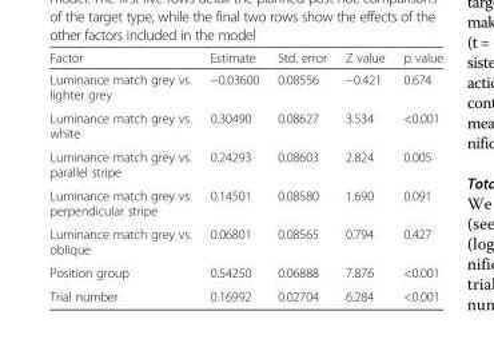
<table><thead><tr><td>Factor</td><td>Estimate</td><td>Std. error</td><td>Z value</td><td>p value</td></tr></thead><tbody><tr><td>Luminance match grey vs. lighter grey</td><td>−0.03600</td><td>0.08556</td><td>−0.421</td><td>0.674</td></tr><tr><td>Luminance match grey vs. white</td><td>0.30490</td><td>0.08627</td><td>3.534</td><td>&lt;0.001</td></tr><tr><td>Luminance match grey vs. parallel stripe</td><td>0.24293</td><td>0.08603</td><td>2.824</td><td>0.005</td></tr><tr><td>Luminance match grey vs. perpendicular stripe</td><td>0.14501</td><td>0.08580</td><td>1.690</td><td>0.091</td></tr><tr><td>Luminance match grey vs. oblique</td><td>0.06801</td><td>0.08565</td><td>0.794</td><td>0.427</td></tr><tr><td>Position group</td><td>0.54250</td><td>0.06888</td><td>7.876</td><td>&lt;0.001</td></tr><tr><td>Trial number</td><td>0.16992</td><td>0.02704</td><td>6.284</td><td>&lt;0.001</td></tr></tbody></table>